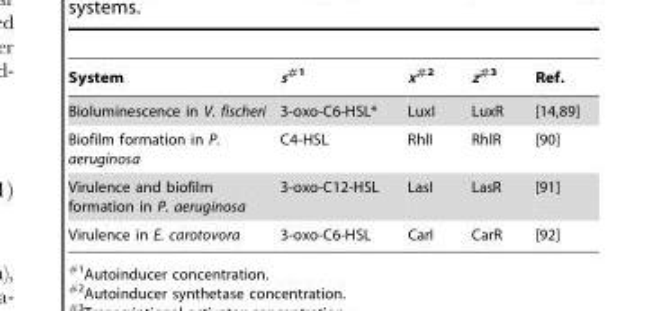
<table><thead><tr><td>System</td><td>s#1</td><td>x#2</td><td>z#3</td><td>Ref.</td></tr></thead><tbody><tr><td>Bioluminescence in V. fischeri</td><td>3-oxo-C6-HSL*</td><td>LuxI</td><td>LuxR</td><td>[14,89]</td></tr><tr><td>Biofilm formation in P. aeruginosa</td><td>C4-HSL</td><td>RhlI</td><td>RhlR</td><td>[90]</td></tr><tr><td>Virulence and biofilm formation in P. aeruginosa</td><td>3-oxo-C12-HSL</td><td>LasI</td><td>LasR</td><td>[91]</td></tr><tr><td>Virulence in E. carotovora</td><td>3-oxo-C6-HSL</td><td>CarI</td><td>CarR</td><td>[92]</td></tr></tbody></table>